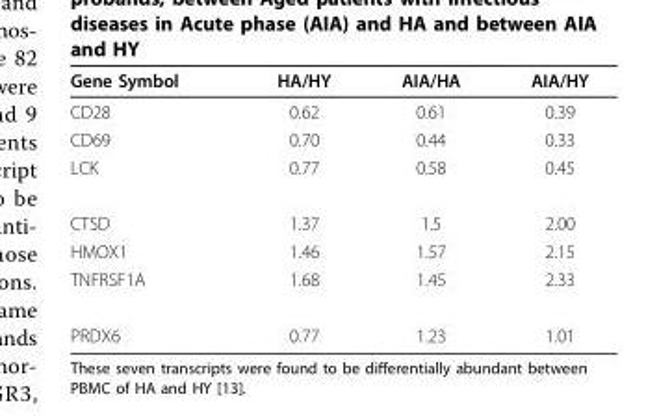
<table><thead><tr><td>Gene Symbol</td><td>HA/HY</td><td>AIA/HA</td><td>AIA/HY</td></tr></thead><tbody><tr><td>CD28</td><td>0.62</td><td>0.61</td><td>0.39</td></tr><tr><td>CD69</td><td>0.70</td><td>0.44</td><td>0.33</td></tr><tr><td>LCK</td><td>0.77</td><td>0.58</td><td>0.45</td></tr><tr><td>CTSD</td><td>1.37</td><td>1.5</td><td>2.00</td></tr><tr><td>HMOX1</td><td>1.46</td><td>1.57</td><td>2.15</td></tr><tr><td>TNFRSF1A</td><td>1.68</td><td>1.45</td><td>2.33</td></tr><tr><td>PRDX6</td><td>0.77</td><td>1.23</td><td>1.01</td></tr></tbody></table>